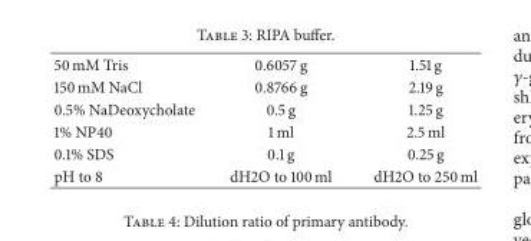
<table><tbody><tr><td>50 mM Tris</td><td>0.6057 g</td><td>1.51 g</td></tr><tr><td>150 mM NaCl</td><td>0.8766 g</td><td>2.19 g</td></tr><tr><td>0.5% NaDeoxycholate</td><td>0.5 g</td><td>1.25 g</td></tr><tr><td>1% NP40</td><td>1 ml</td><td>2.5 ml</td></tr><tr><td>0.1% SDS</td><td>0.1 g</td><td>0.25 g</td></tr><tr><td>pH to 8</td><td>dH2O to 100 ml</td><td>dH2O to 250 ml</td></tr></tbody></table>